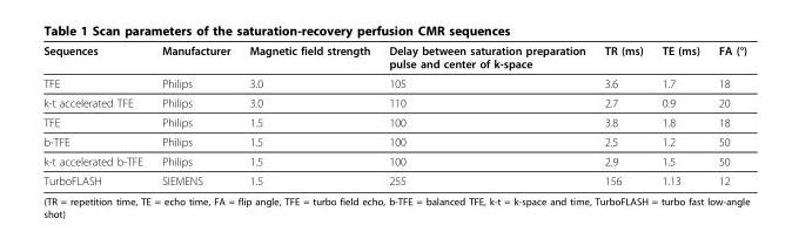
<table><thead><tr><td>Sequences</td><td>Manufacturer</td><td>Magnetic field strength</td><td>Delay between saturation preparation pulse and center of k-space</td><td>TR (ms)</td><td>TE (ms)</td><td>FA (°)</td></tr></thead><tbody><tr><td>TFE</td><td>Philips</td><td>3.0</td><td>105</td><td>3.6</td><td>1.7</td><td>18</td></tr><tr><td>k-t accelerated TFE</td><td>Philips</td><td>3.0</td><td>110</td><td>2.7</td><td>0.9</td><td>20</td></tr><tr><td>TFE</td><td>Philips</td><td>1.5</td><td>100</td><td>3.8</td><td>1.8</td><td>18</td></tr><tr><td>b-TFE</td><td>Philips</td><td>1.5</td><td>100</td><td>2.5</td><td>1.2</td><td>50</td></tr><tr><td>k-t accelerated b-TFE</td><td>Philips</td><td>1.5</td><td>100</td><td>2.9</td><td>1.5</td><td>50</td></tr><tr><td>TurboFLASH</td><td>SIEMENS</td><td>1.5</td><td>255</td><td>156</td><td>1.13</td><td>12</td></tr></tbody></table>